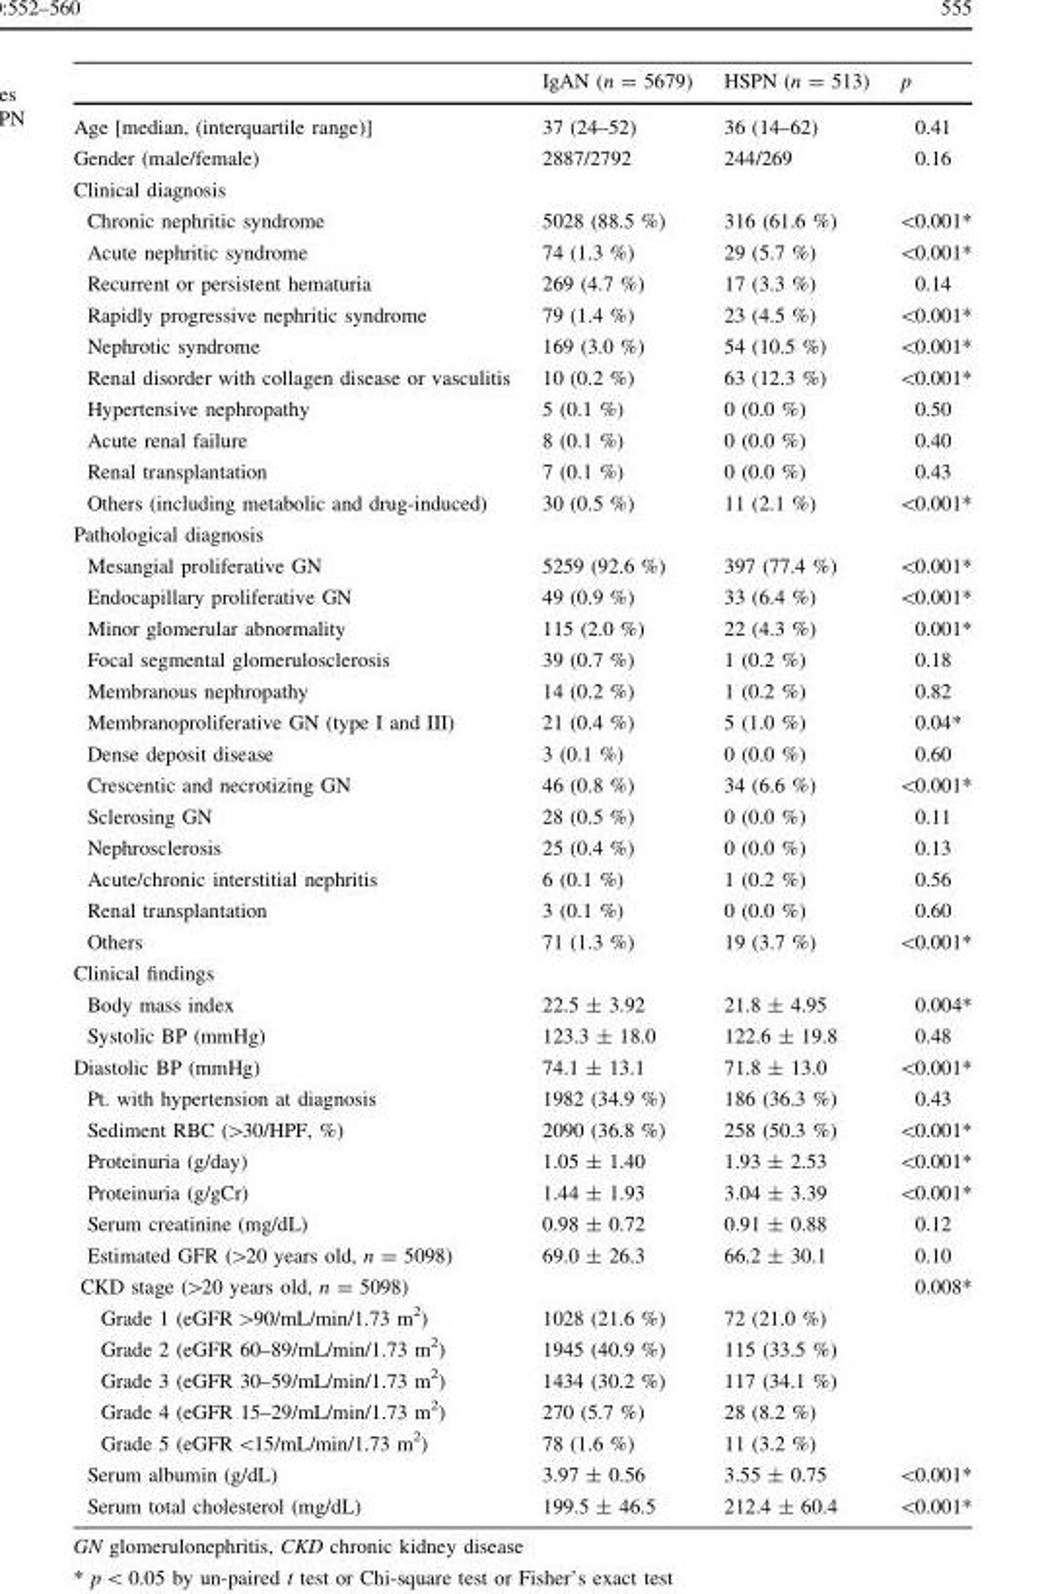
<table><thead><tr><td></td><td>IgAN (n = 5679)</td><td>HSPN (n = 513)</td><td>p</td></tr></thead><tbody><tr><td>Age [median, (interquartile range)]</td><td>37 (24–52)</td><td>36 (14–62)</td><td>0.41</td></tr><tr><td>Gender (male/female)</td><td>2887/2792</td><td>244/269</td><td>0.16</td></tr><tr><td colspan="4">Clinical diagnosis</td></tr><tr><td>Chronic nephritic syndrome</td><td>5028 (88.5 %)</td><td>316 (61.6 %)</td><td>&lt;0.001*</td></tr><tr><td>Acute nephritic syndrome</td><td>74 (1.3 %)</td><td>29 (5.7 %)</td><td>&lt;0.001*</td></tr><tr><td>Recurrent or persistent hematuria</td><td>269 (4.7 %)</td><td>17 (3.3 %)</td><td>0.14</td></tr><tr><td>Rapidly progressive nephritic syndrome</td><td>79 (1.4 %)</td><td>23 (4.5 %)</td><td>&lt;0.001*</td></tr><tr><td>Nephrotic syndrome</td><td>169 (3.0 %)</td><td>54 (10.5 %)</td><td>&lt;0.001*</td></tr><tr><td>Renal disorder with collagen disease or vasculitis</td><td>10 (0.2 %)</td><td>63 (12.3 %)</td><td>&lt;0.001*</td></tr><tr><td>Hypertensive nephropathy</td><td>5 (0.1 %)</td><td>0 (0.0 %)</td><td>0.50</td></tr><tr><td>Acute renal failure</td><td>8 (0.1 %)</td><td>0 (0.0 %)</td><td>0.40</td></tr><tr><td>Renal transplantation</td><td>7 (0.1 %)</td><td>0 (0.0 %)</td><td>0.43</td></tr><tr><td>Others (including metabolic and drug-induced)</td><td>30 (0.5 %)</td><td>11 (2.1 %)</td><td>&lt;0.001*</td></tr><tr><td colspan="4">Pathological diagnosis</td></tr><tr><td>Mesangial proliferative GN</td><td>5259 (92.6 %)</td><td>397 (77.4 %)</td><td>&lt;0.001*</td></tr><tr><td>Endocapillary proliferative GN</td><td>49 (0.9 %)</td><td>33 (6.4 %)</td><td>&lt;0.001*</td></tr><tr><td>Minor glomerular abnormality</td><td>115 (2.0 %)</td><td>22 (4.3 %)</td><td>0.001*</td></tr><tr><td>Focal segmental glomerulosclerosis</td><td>39 (0.7 %)</td><td>1 (0.2 %)</td><td>0.18</td></tr><tr><td>Membranous nephropathy</td><td>14 (0.2 %)</td><td>1 (0.2 %)</td><td>0.82</td></tr><tr><td>Membranoproliferative GN (type I and III)</td><td>21 (0.4 %)</td><td>5 (1.0 %)</td><td>0.04*</td></tr><tr><td>Dense deposit disease</td><td>3 (0.1 %)</td><td>0 (0.0 %)</td><td>0.60</td></tr><tr><td>Crescentic and necrotizing GN</td><td>46 (0.8 %)</td><td>34 (6.6 %)</td><td>&lt;0.001*</td></tr><tr><td>Sclerosing GN</td><td>28 (0.5 %)</td><td>0 (0.0 %)</td><td>0.11</td></tr><tr><td>Nephrosclerosis</td><td>25 (0.4 %)</td><td>0 (0.0 %)</td><td>0.13</td></tr><tr><td>Acute/chronic interstitial nephritis</td><td>6 (0.1 %)</td><td>1 (0.2 %)</td><td>0.56</td></tr><tr><td>Renal transplantation</td><td>3 (0.1 %)</td><td>0 (0.0 %)</td><td>0.60</td></tr><tr><td>Others</td><td>71 (1.3 %)</td><td>19 (3.7 %)</td><td>&lt;0.001*</td></tr><tr><td colspan="4">Clinical findings</td></tr><tr><td>Body mass index</td><td>22.5 ± 3.92</td><td>21.8 ± 4.95</td><td>0.004*</td></tr><tr><td>Systolic BP (mmHg)</td><td>123.3 ± 18.0</td><td>122.6 ± 19.8</td><td>0.48</td></tr><tr><td>Diastolic BP (mmHg)</td><td>74.1 ± 13.1</td><td>71.8 ± 13.0</td><td>&lt;0.001*</td></tr><tr><td>Pt. with hypertension at diagnosis</td><td>1982 (34.9 %)</td><td>186 (36.3 %)</td><td>0.43</td></tr><tr><td>Sediment RBC (&gt;30/HPF, %)</td><td>2090 (36.8 %)</td><td>258 (50.3 %)</td><td>&lt;0.001*</td></tr><tr><td>Proteinuria (g/day)</td><td>1.05 ± 1.40</td><td>1.93 ± 2.53</td><td>&lt;0.001*</td></tr><tr><td>Proteinuria (g/gCr)</td><td>1.44 ± 1.93</td><td>3.04 ± 3.39</td><td>&lt;0.001*</td></tr><tr><td>Serum creatinine (mg/dL)</td><td>0.98 ± 0.72</td><td>0.91 ± 0.88</td><td>0.12</td></tr><tr><td>Estimated GFR (&gt;20 years old, n = 5098)</td><td>69.0 ± 26.3</td><td>66.2 ± 30.1</td><td>0.10</td></tr><tr><td colspan="3">CKD stage (&gt;20 years old, n = 5098)</td><td>0.008*</td></tr><tr><td>Grade 1 (eGFR &gt;90/mL/min/1.73 m<sup>2</sup>)</td><td>1028 (21.6 %)</td><td>72 (21.0 %)</td><td></td></tr><tr><td>Grade 2 (eGFR 60–89/mL/min/1.73 m<sup>2</sup>)</td><td>1945 (40.9 %)</td><td>115 (33.5 %)</td><td></td></tr><tr><td>Grade 3 (eGFR 30–59/mL/min/1.73 m<sup>2</sup>)</td><td>1434 (30.2 %)</td><td>117 (34.1 %)</td><td></td></tr><tr><td>Grade 4 (eGFR 15–29/mL/min/1.73 m<sup>2</sup>)</td><td>270 (5.7 %)</td><td>28 (8.2 %)</td><td></td></tr><tr><td>Grade 5 (eGFR &lt;15/mL/min/1.73 m<sup>2</sup>)</td><td>78 (1.6 %)</td><td>11 (3.2 %)</td><td></td></tr><tr><td>Serum albumin (g/dL)</td><td>3.97 ± 0.56</td><td>3.55 ± 0.75</td><td>&lt;0.001*</td></tr><tr><td>Serum total cholesterol (mg/dL)</td><td>199.5 ± 46.5</td><td>212.4 ± 60.4</td><td>&lt;0.001*</td></tr></tbody></table>